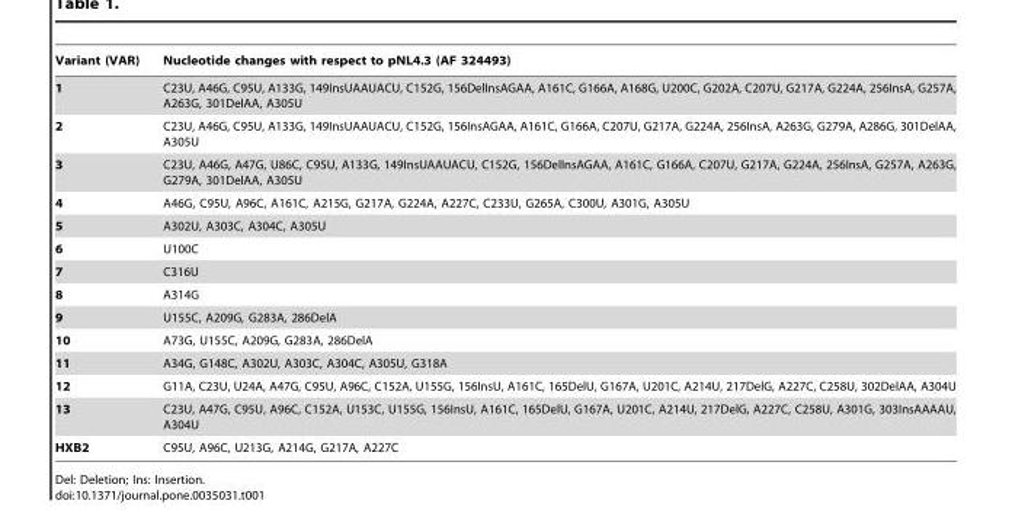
<table><thead><tr><td>Variant (VAR)</td><td>Nucleotide changes with respect to pNL4.3 (AF 324493)</td></tr></thead><tbody><tr><td>1</td><td>C23U, A46G, C95U, A133G, 149InsUAAUACU, C152G, 156DelInsAGAA, A161C, G166A, A168G, U200C, G202A, C207U, G217A, G224A, 256InsA, G257A, A263G, 301DelAA, A305U</td></tr><tr><td>2</td><td>C23U, A46G, C95U, A133G, 149InsUAAUACU, C152G, 156InsAGAA, A161C, G166A, C207U, G217A, G224A, 256InsA, A263G, G279A, A286G, 301DelAA, A305U</td></tr><tr><td>3</td><td>C23U, A46G, A47G, U86C, C95U, A133G, 149InsUAAUACU, C152G, 156DelInsAGAA, A161C, G166A, C207U, G217A, G224A, 256InsA, G257A, A263G, G279A, 301DelAA, A305U</td></tr><tr><td>4</td><td>A46G, C95U, A96C, A161C, A215G, G217A, G224A, A227C, C233U, G265A, C300U, A301G, A305U</td></tr><tr><td>5</td><td>A302U, A303C, A304C, A305U</td></tr><tr><td>6</td><td>U100C</td></tr><tr><td>7</td><td>C316U</td></tr><tr><td>8</td><td>A314G</td></tr><tr><td>9</td><td>U155C, A209G, G283A, 286DelA</td></tr><tr><td>10</td><td>A73G, U155C, A209G, G283A, 286DelA</td></tr><tr><td>11</td><td>A34G, G148C, A302U, A303C, A304C, A305U, G318A</td></tr><tr><td>12</td><td>G11A, C23U, U24A, A47G, C95U, A96C, C152A, U155G, 156InsU, A161C, 165DelU, G167A, U201C, A214U, 217DelG, A227C, C258U, 302DelAA, A304U</td></tr><tr><td>13</td><td>C23U, A47G, C95U, A96C, C152A, U153C, U155G, 156InsU, A161C, 165DelU, G167A, U201C, A214U, 217DelG, A227C, C258U, A301G, 303InsAAAAU, A304U</td></tr><tr><td>HXB2</td><td>C95U, A96C, U213G, A214G, G217A, A227C</td></tr></tbody></table>